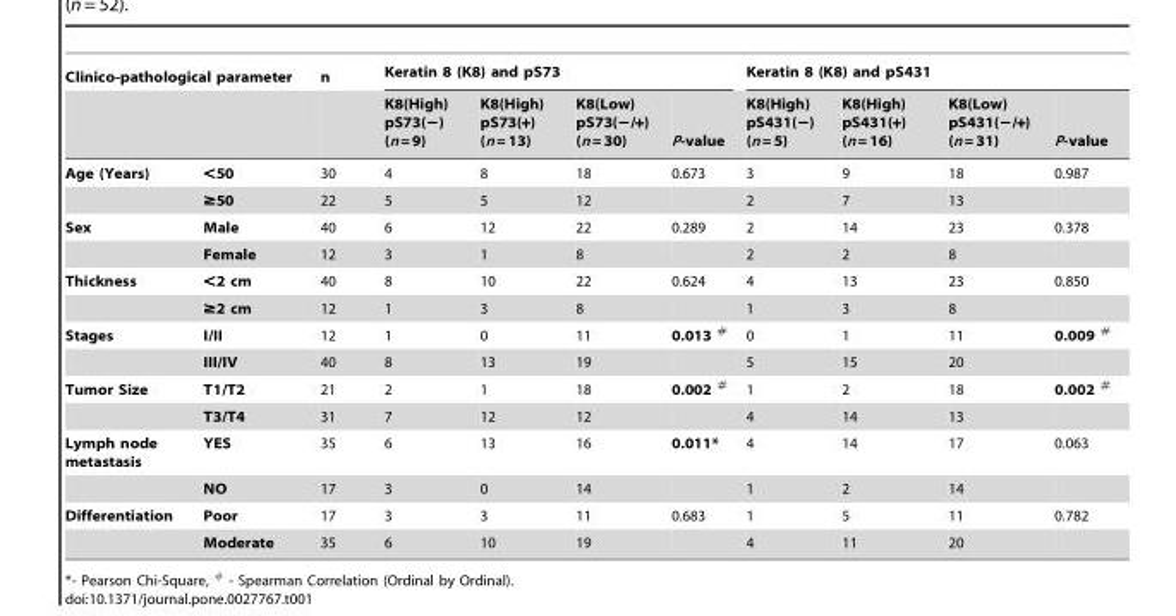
<table><thead><tr><td colspan="2">Clinico-pathological parameter</td><td rowspan="2">n</td><td colspan="4">Keratin 8 (K8) and pS73</td><td colspan="4">Keratin 8 (K8) and pS431</td></tr><tr><td></td><td></td><td>K8(High) pS73(−) (n = 9)</td><td>K8(High) pS73(+) (n = 13)</td><td>K8(Low) pS73(−/+) (n = 30)</td><td>P-value</td><td>K8(High) pS431(−) (n = 5)</td><td>K8(High) pS431(+) (n = 16)</td><td>K8(Low) pS431(−/+) (n = 31)</td><td>P-value</td></tr></thead><tbody><tr><td rowspan="2">Age (Years)</td><td>&lt;50</td><td>30</td><td>4</td><td>8</td><td>18</td><td>0.673</td><td>3</td><td>9</td><td>18</td><td>0.987</td></tr><tr><td>≥50</td><td>22</td><td>5</td><td>5</td><td>12</td><td></td><td>2</td><td>7</td><td>13</td><td></td></tr><tr><td rowspan="2">Sex</td><td>Male</td><td>40</td><td>6</td><td>12</td><td>22</td><td>0.289</td><td>2</td><td>14</td><td>23</td><td>0.378</td></tr><tr><td>Female</td><td>12</td><td>3</td><td>1</td><td>8</td><td></td><td>2</td><td>2</td><td>8</td><td></td></tr><tr><td rowspan="2">Thickness</td><td>&lt;2 cm</td><td>40</td><td>8</td><td>10</td><td>22</td><td>0.624</td><td>4</td><td>13</td><td>23</td><td>0.850</td></tr><tr><td>≥2 cm</td><td>12</td><td>1</td><td>3</td><td>8</td><td></td><td>1</td><td>3</td><td>8</td><td></td></tr><tr><td rowspan="2">Stages</td><td>I/II</td><td>12</td><td>1</td><td>0</td><td>11</td><td>0.013 <sup>#</sup></td><td>0</td><td>1</td><td>11</td><td>0.009 <sup>#</sup></td></tr><tr><td>III/IV</td><td>40</td><td>8</td><td>13</td><td>19</td><td></td><td>5</td><td>15</td><td>20</td><td></td></tr><tr><td rowspan="2">Tumor Size</td><td>T1/T2</td><td>21</td><td>2</td><td>1</td><td>18</td><td>0.002 <sup>#</sup></td><td>1</td><td>2</td><td>18</td><td>0.002 <sup>#</sup></td></tr><tr><td>T3/T4</td><td>31</td><td>7</td><td>12</td><td>12</td><td></td><td>4</td><td>14</td><td>13</td><td></td></tr><tr><td rowspan="2">Lymph node metastasis</td><td>YES</td><td>35</td><td>6</td><td>13</td><td>16</td><td>0.011*</td><td>4</td><td>14</td><td>17</td><td>0.063</td></tr><tr><td>NO</td><td>17</td><td>3</td><td>0</td><td>14</td><td></td><td>1</td><td>2</td><td>14</td><td></td></tr><tr><td rowspan="2">Differentiation</td><td>Poor</td><td>17</td><td>3</td><td>3</td><td>11</td><td>0.683</td><td>1</td><td>5</td><td>11</td><td>0.782</td></tr><tr><td>Moderate</td><td>35</td><td>6</td><td>10</td><td>19</td><td></td><td>4</td><td>11</td><td>20</td><td></td></tr></tbody></table>